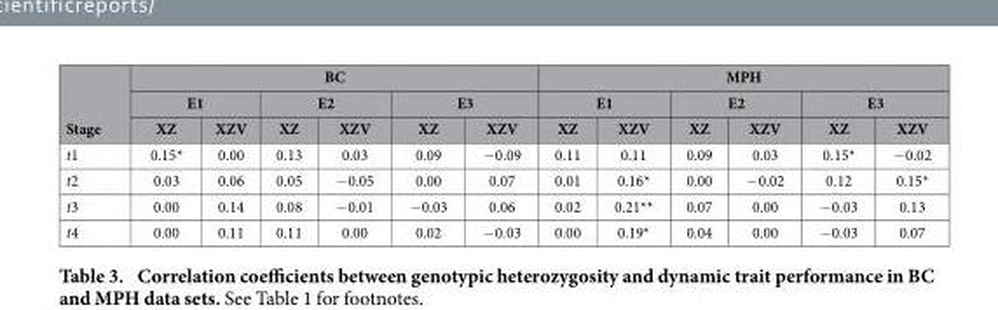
<table><thead><tr><td rowspan="3">Stage</td><td colspan="6">BC</td><td colspan="6">MPH</td></tr><tr><td colspan="2">E1</td><td colspan="2">E2</td><td colspan="2">E3</td><td colspan="2">E1</td><td colspan="2">E2</td><td colspan="2">E3</td></tr><tr><td>XZ</td><td>XZV</td><td>XZ</td><td>XZV</td><td>XZ</td><td>XZV</td><td>XZ</td><td>XZV</td><td>XZ</td><td>XZV</td><td>XZ</td><td>XZV</td></tr></thead><tbody><tr><td>t1</td><td>0.15*</td><td>0.00</td><td>0.13</td><td>0.03</td><td>0.09</td><td>− 0.09</td><td>0.11</td><td>0.11</td><td>0.09</td><td>0.03</td><td>0.15*</td><td>− 0.02</td></tr><tr><td>t2</td><td>0.03</td><td>0.06</td><td>0.05</td><td>− 0.05</td><td>0.00</td><td>0.07</td><td>0.01</td><td>0.16*</td><td>0.00</td><td>− 0.02</td><td>0.12</td><td>0.15*</td></tr><tr><td>t3</td><td>0.00</td><td>0.14</td><td>0.08</td><td>− 0.01</td><td>− 0.03</td><td>0.06</td><td>0.02</td><td>0.21**</td><td>0.07</td><td>0.00</td><td>− 0.03</td><td>0.13</td></tr><tr><td>t4</td><td>0.00</td><td>0.11</td><td>0.11</td><td>0.00</td><td>0.02</td><td>− 0.03</td><td>0.00</td><td>0.19*</td><td>0.04</td><td>0.00</td><td>− 0.03</td><td>0.07</td></tr></tbody></table>